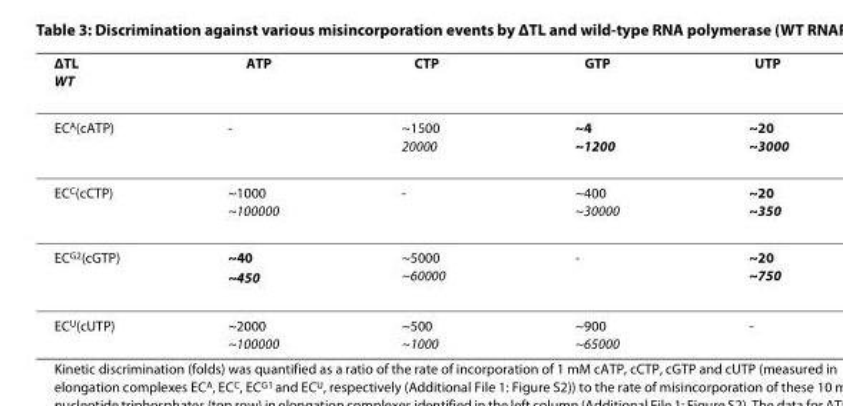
<table><thead><tr><td>ΔTL WT</td><td>ATP</td><td>CTP</td><td>GTP</td><td>UTP</td></tr></thead><tbody><tr><td>EC<sup>A</sup>(cATP)</td><td>-</td><td>~1500 20000</td><td>~4 ~1200</td><td>~20 ~3000</td></tr><tr><td>EC<sup>C</sup>(cCTP)</td><td>~1000 ~100000</td><td>-</td><td>~400 ~30000</td><td>~20 ~350</td></tr><tr><td>EC<sup>G2</sup>(cGTP)</td><td>~40 ~450</td><td>~5000 ~60000</td><td>-</td><td>~20 ~750</td></tr><tr><td>EC<sup>U</sup>(cUTP)</td><td>~2000 ~100000</td><td>~500 ~1000</td><td>~900 ~65000</td><td>-</td></tr></tbody></table>